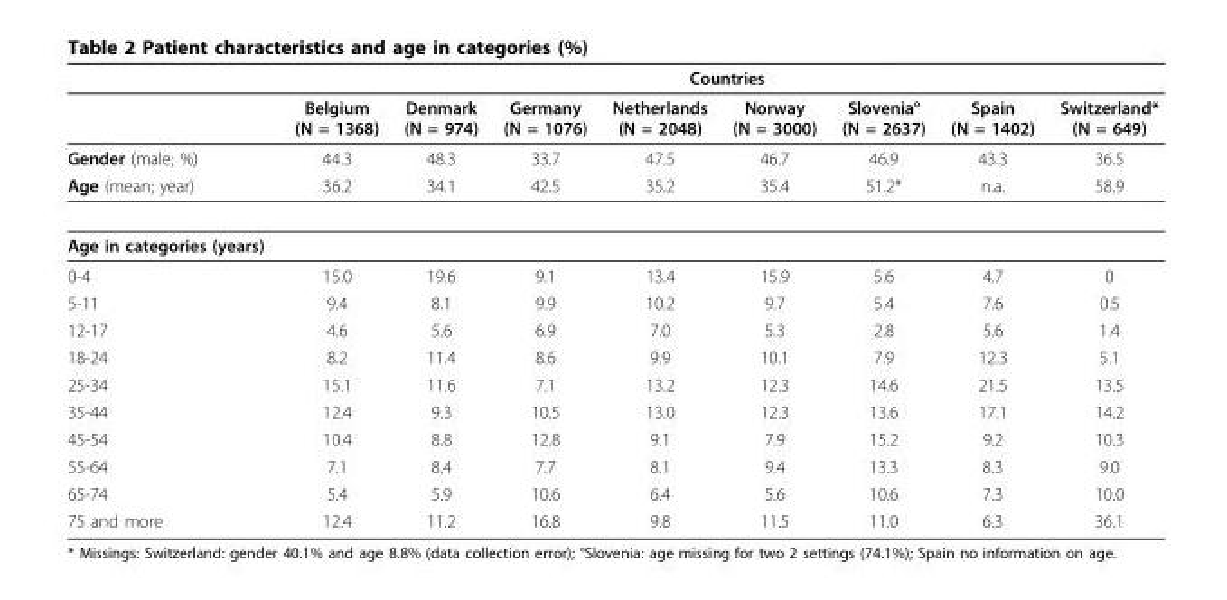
<table><thead><tr><td rowspan="2"></td><td colspan="8">Countries</td></tr><tr><td>Belgium (N = 1368)</td><td>Denmark (N = 974)</td><td>Germany (N = 1076)</td><td>Netherlands (N = 2048)</td><td>Norway (N = 3000)</td><td>Slovenia° (N = 2637)</td><td>Spain (N = 1402)</td><td>Switzerland* (N = 649)</td></tr></thead><tbody><tr><td>Gender (male; %)</td><td>44.3</td><td>48.3</td><td>33.7</td><td>47.5</td><td>46.7</td><td>46.9</td><td>43.3</td><td>36.5</td></tr><tr><td>Age (mean; year)</td><td>36.2</td><td>34.1</td><td>42.5</td><td>35.2</td><td>35.4</td><td>51.2*</td><td>n.a.</td><td>58.9</td></tr><tr><td colspan="9">Age in categories (years)</td></tr><tr><td>0-4</td><td>15.0</td><td>19.6</td><td>9.1</td><td>13.4</td><td>15.9</td><td>5.6</td><td>4.7</td><td>0</td></tr><tr><td>5-11</td><td>9.4</td><td>8.1</td><td>9.9</td><td>10.2</td><td>9.7</td><td>5.4</td><td>7.6</td><td>0.5</td></tr><tr><td>12-17</td><td>4.6</td><td>5.6</td><td>6.9</td><td>7.0</td><td>5.3</td><td>2.8</td><td>5.6</td><td>1.4</td></tr><tr><td>18-24</td><td>8.2</td><td>11.4</td><td>8.6</td><td>9.9</td><td>10.1</td><td>7.9</td><td>12.3</td><td>5.1</td></tr><tr><td>25-34</td><td>15.1</td><td>11.6</td><td>7.1</td><td>13.2</td><td>12.3</td><td>14.6</td><td>21.5</td><td>13.5</td></tr><tr><td>35-44</td><td>12.4</td><td>9.3</td><td>10.5</td><td>13.0</td><td>12.3</td><td>13.6</td><td>17.1</td><td>14.2</td></tr><tr><td>45-54</td><td>10.4</td><td>8.8</td><td>12.8</td><td>9.1</td><td>7.9</td><td>15.2</td><td>9.2</td><td>10.3</td></tr><tr><td>55-64</td><td>7.1</td><td>8.4</td><td>7.7</td><td>8.1</td><td>9.4</td><td>13.3</td><td>8.3</td><td>9.0</td></tr><tr><td>65-74</td><td>5.4</td><td>5.9</td><td>10.6</td><td>6.4</td><td>5.6</td><td>10.6</td><td>7.3</td><td>10.0</td></tr><tr><td>75 and more</td><td>12.4</td><td>11.2</td><td>16.8</td><td>9.8</td><td>11.5</td><td>11.0</td><td>6.3</td><td>36.1</td></tr></tbody></table>